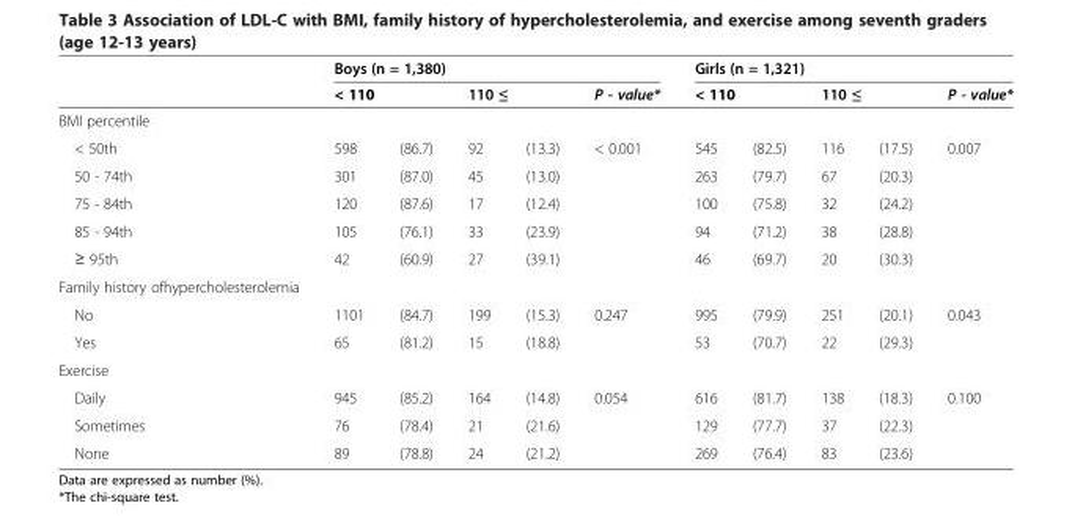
<table><thead><tr><td rowspan="3">BMI percentile</td><td colspan="5">Boys (n = 1,380)</td><td colspan="5">Girls (n = 1,321)</td></tr><tr><td colspan="2">&lt; 110</td><td colspan="2">110 ≤</td><td rowspan="2">P - value*</td><td colspan="2">&lt; 110</td><td colspan="2">110 ≤</td><td rowspan="2">P - value*</td></tr><tr><td></td><td></td><td></td><td></td><td></td><td></td><td></td><td></td></tr></thead><tbody><tr><td>&lt; 50th</td><td>598</td><td>(86.7)</td><td>92</td><td>(13.3)</td><td>&lt; 0.001</td><td>545</td><td>(82.5)</td><td>116</td><td>(17.5)</td><td>0.007</td></tr><tr><td>50 - 74th</td><td>301</td><td>(87.0)</td><td>45</td><td>(13.0)</td><td></td><td>263</td><td>(79.7)</td><td>67</td><td>(20.3)</td><td></td></tr><tr><td>75 - 84th</td><td>120</td><td>(87.6)</td><td>17</td><td>(12.4)</td><td></td><td>100</td><td>(75.8)</td><td>32</td><td>(24.2)</td><td></td></tr><tr><td>85 - 94th</td><td>105</td><td>(76.1)</td><td>33</td><td>(23.9)</td><td></td><td>94</td><td>(71.2)</td><td>38</td><td>(28.8)</td><td></td></tr><tr><td>≥ 95th</td><td>42</td><td>(60.9)</td><td>27</td><td>(39.1)</td><td></td><td>46</td><td>(69.7)</td><td>20</td><td>(30.3)</td><td></td></tr><tr><td colspan="11">Family history ofhypercholesterolemia</td></tr><tr><td>No</td><td>1101</td><td>(84.7)</td><td>199</td><td>(15.3)</td><td>0.247</td><td>995</td><td>(79.9)</td><td>251</td><td>(20.1)</td><td>0.043</td></tr><tr><td>Yes</td><td>65</td><td>(81.2)</td><td>15</td><td>(18.8)</td><td></td><td>53</td><td>(70.7)</td><td>22</td><td>(29.3)</td><td></td></tr><tr><td colspan="11">Exercise</td></tr><tr><td>Daily</td><td>945</td><td>(85.2)</td><td>164</td><td>(14.8)</td><td>0.054</td><td>616</td><td>(81.7)</td><td>138</td><td>(18.3)</td><td>0.100</td></tr><tr><td>Sometimes</td><td>76</td><td>(78.4)</td><td>21</td><td>(21.6)</td><td></td><td>129</td><td>(77.7)</td><td>37</td><td>(22.3)</td><td></td></tr><tr><td>None</td><td>89</td><td>(78.8)</td><td>24</td><td>(21.2)</td><td></td><td>269</td><td>(76.4)</td><td>83</td><td>(23.6)</td><td></td></tr></tbody></table>